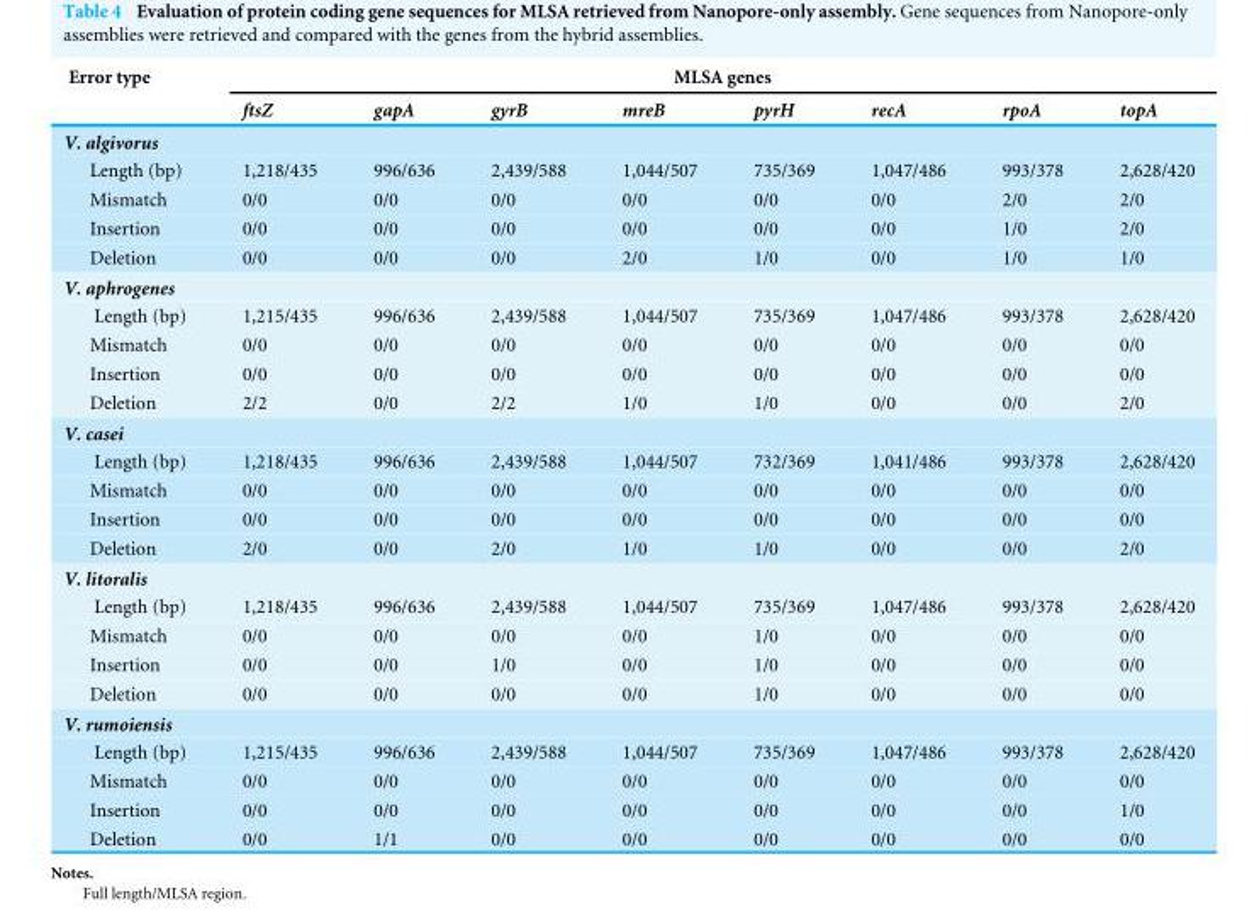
<table><thead><tr><td rowspan="2">Error type</td><td colspan="8">MLSA genes</td></tr><tr><td>ftsZ</td><td>gapA</td><td>gyrB</td><td>mreB</td><td>pyrH</td><td>recA</td><td>rpoA</td><td>topA</td></tr></thead><tbody><tr><td colspan="9">V. algivorus</td></tr><tr><td>Length (bp)</td><td>1,218/435</td><td>996/636</td><td>2,439/588</td><td>1,044/507</td><td>735/369</td><td>1,047/486</td><td>993/378</td><td>2,628/420</td></tr><tr><td>Mismatch</td><td>0/0</td><td>0/0</td><td>0/0</td><td>0/0</td><td>0/0</td><td>0/0</td><td>2/0</td><td>2/0</td></tr><tr><td>Insertion</td><td>0/0</td><td>0/0</td><td>0/0</td><td>0/0</td><td>0/0</td><td>0/0</td><td>1/0</td><td>2/0</td></tr><tr><td>Deletion</td><td>0/0</td><td>0/0</td><td>0/0</td><td>2/0</td><td>1/0</td><td>0/0</td><td>1/0</td><td>1/0</td></tr><tr><td colspan="9">V. aphrogenes</td></tr><tr><td>Length (bp)</td><td>1,215/435</td><td>996/636</td><td>2,439/588</td><td>1,044/507</td><td>735/369</td><td>1,047/486</td><td>993/378</td><td>2,628/420</td></tr><tr><td>Mismatch</td><td>0/0</td><td>0/0</td><td>0/0</td><td>0/0</td><td>0/0</td><td>0/0</td><td>0/0</td><td>0/0</td></tr><tr><td>Insertion</td><td>0/0</td><td>0/0</td><td>0/0</td><td>0/0</td><td>0/0</td><td>0/0</td><td>0/0</td><td>0/0</td></tr><tr><td>Deletion</td><td>2/2</td><td>0/0</td><td>2/2</td><td>1/0</td><td>1/0</td><td>0/0</td><td>0/0</td><td>2/0</td></tr><tr><td colspan="9">V. casei</td></tr><tr><td>Length (bp)</td><td>1,218/435</td><td>996/636</td><td>2,439/588</td><td>1,044/507</td><td>732/369</td><td>1,041/486</td><td>993/378</td><td>2,628/420</td></tr><tr><td>Mismatch</td><td>0/0</td><td>0/0</td><td>0/0</td><td>0/0</td><td>0/0</td><td>0/0</td><td>0/0</td><td>0/0</td></tr><tr><td>Insertion</td><td>0/0</td><td>0/0</td><td>0/0</td><td>0/0</td><td>0/0</td><td>0/0</td><td>0/0</td><td>0/0</td></tr><tr><td>Deletion</td><td>2/0</td><td>0/0</td><td>2/0</td><td>1/0</td><td>1/0</td><td>0/0</td><td>0/0</td><td>2/0</td></tr><tr><td colspan="9">V. litoralis</td></tr><tr><td>Length (bp)</td><td>1,218/435</td><td>996/636</td><td>2,439/588</td><td>1,044/507</td><td>735/369</td><td>1,047/486</td><td>993/378</td><td>2,628/420</td></tr><tr><td>Mismatch</td><td>0/0</td><td>0/0</td><td>0/0</td><td>0/0</td><td>1/0</td><td>0/0</td><td>0/0</td><td>0/0</td></tr><tr><td>Insertion</td><td>0/0</td><td>0/0</td><td>1/0</td><td>0/0</td><td>1/0</td><td>0/0</td><td>0/0</td><td>0/0</td></tr><tr><td>Deletion</td><td>0/0</td><td>0/0</td><td>0/0</td><td>0/0</td><td>1/0</td><td>0/0</td><td>0/0</td><td>0/0</td></tr><tr><td colspan="9">V. rumoiensis</td></tr><tr><td>Length (bp)</td><td>1,215/435</td><td>996/636</td><td>2,439/588</td><td>1,044/507</td><td>735/369</td><td>1,047/486</td><td>993/378</td><td>2,628/420</td></tr><tr><td>Mismatch</td><td>0/0</td><td>0/0</td><td>0/0</td><td>0/0</td><td>0/0</td><td>0/0</td><td>0/0</td><td>0/0</td></tr><tr><td>Insertion</td><td>0/0</td><td>0/0</td><td>0/0</td><td>0/0</td><td>0/0</td><td>0/0</td><td>0/0</td><td>1/0</td></tr><tr><td>Deletion</td><td>0/0</td><td>1/1</td><td>0/0</td><td>0/0</td><td>0/0</td><td>0/0</td><td>0/0</td><td>0/0</td></tr></tbody></table>